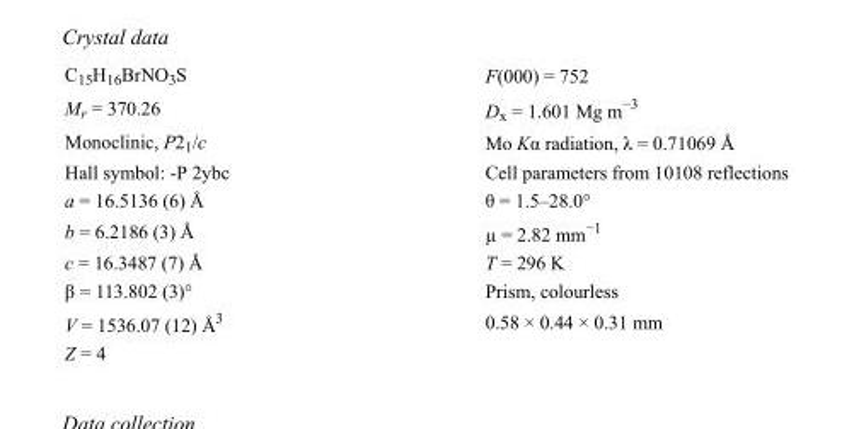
<table><tbody><tr><td>C<sub>15</sub>H<sub>16</sub>BrNO<sub>3</sub>S</td><td>F(000) = 752</td></tr><tr><td>M<sub>r</sub> = 370.26</td><td>D<sub>x</sub> = 1.601 Mg m<sup>−3</sup></td></tr><tr><td>Monoclinic, P2<sub>1</sub>/c</td><td>Mo Kα radiation, λ = 0.71069 Å</td></tr><tr><td>Hall symbol: -P 2ybc</td><td>Cell parameters from 10108 reflections</td></tr><tr><td>a = 16.5136 (6) Å</td><td>θ = 1.5–28.0°</td></tr><tr><td>b = 6.2186 (3) Å</td><td>µ = 2.82 mm<sup>−1</sup></td></tr><tr><td>c = 16.3487 (7) Å</td><td>T = 296 K</td></tr><tr><td>β = 113.802 (3)°</td><td>Prism, colourless</td></tr><tr><td>V = 1536.07 (12) Å<sup>3</sup></td><td>0.58 × 0.44 × 0.31 mm</td></tr><tr><td>Z = 4</td><td></td></tr></tbody></table>